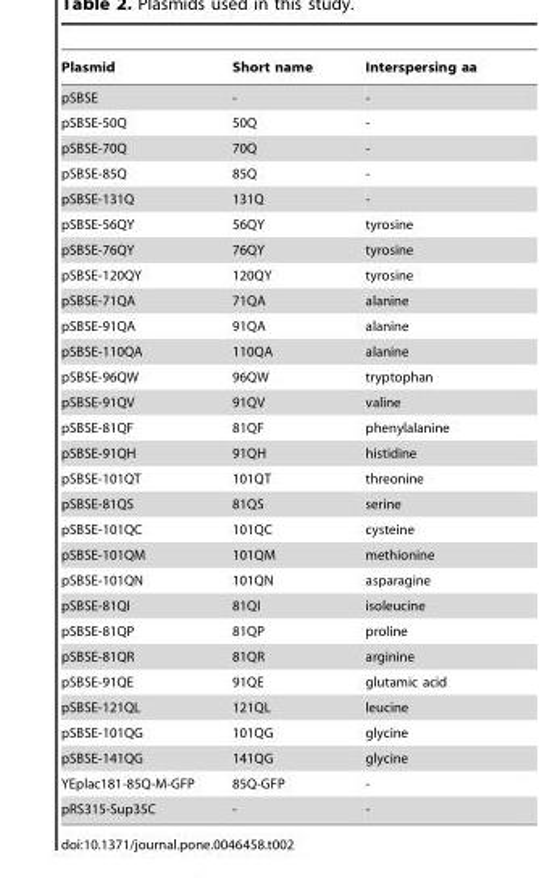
<table><thead><tr><td>Plasmid</td><td>Short name</td><td>Interspersing aa</td></tr></thead><tbody><tr><td>pSBSE</td><td>-</td><td>-</td></tr><tr><td>pSBSE-50Q</td><td>50Q</td><td>-</td></tr><tr><td>pSBSE-70Q</td><td>70Q</td><td>-</td></tr><tr><td>pSBSE-85Q</td><td>85Q</td><td>-</td></tr><tr><td>pSBSE-131Q</td><td>131Q</td><td>-</td></tr><tr><td>pSBSE-56QY</td><td>56QY</td><td>tyrosine</td></tr><tr><td>pSBSE-76QY</td><td>76QY</td><td>tyrosine</td></tr><tr><td>pSBSE-120QY</td><td>120QY</td><td>tyrosine</td></tr><tr><td>pSBSE-71QA</td><td>71QA</td><td>alanine</td></tr><tr><td>pSBSE-91QA</td><td>91QA</td><td>alanine</td></tr><tr><td>pSBSE-110QA</td><td>110QA</td><td>alanine</td></tr><tr><td>pSBSE-96QW</td><td>96QW</td><td>tryptophan</td></tr><tr><td>pSBSE-91QV</td><td>91QV</td><td>valine</td></tr><tr><td>pSBSE-81QF</td><td>81QF</td><td>phenylalanine</td></tr><tr><td>pSBSE-91QH</td><td>91QH</td><td>histidine</td></tr><tr><td>pSBSE-101QT</td><td>101QT</td><td>threonine</td></tr><tr><td>pSBSE-81QS</td><td>81QS</td><td>serine</td></tr><tr><td>pSBSE-101QC</td><td>101QC</td><td>cysteine</td></tr><tr><td>pSBSE-101QM</td><td>101QM</td><td>methionine</td></tr><tr><td>pSBSE-101QN</td><td>101QN</td><td>asparagine</td></tr><tr><td>pSBSE-81QI</td><td>81QI</td><td>isoleucine</td></tr><tr><td>pSBSE-81QP</td><td>81QP</td><td>proline</td></tr><tr><td>pSBSE-81QR</td><td>81QR</td><td>arginine</td></tr><tr><td>pSBSE-91QE</td><td>91QE</td><td>glutamic acid</td></tr><tr><td>pSBSE-121QL</td><td>121QL</td><td>leucine</td></tr><tr><td>pSBSE-101QG</td><td>101QG</td><td>glycine</td></tr><tr><td>pSBSE-141QG</td><td>141QG</td><td>glycine</td></tr><tr><td>YEplac181-85Q-M-GFP</td><td>85Q-GFP</td><td>-</td></tr><tr><td>pRS315-Sup35C</td><td>-</td><td>-</td></tr></tbody></table>